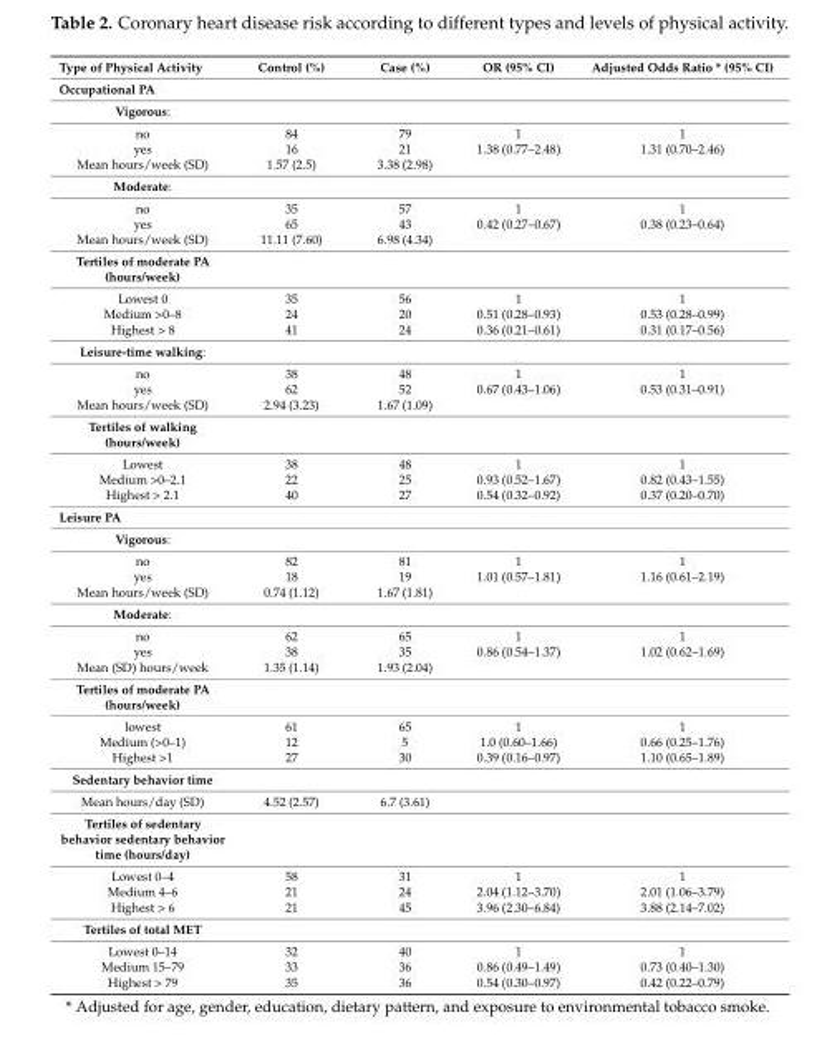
<table><thead><tr><td>Type of Physical Activity</td><td>Control (%)</td><td>Case (%)</td><td>OR (95% CI)</td><td>Adjusted Odds Ratio * (95% CI)</td></tr></thead><tbody><tr><td colspan="5">Occupational PA</td></tr><tr><td colspan="5">Vigorous:</td></tr><tr><td>no</td><td>84</td><td>79</td><td>1</td><td>1</td></tr><tr><td>yes</td><td>16</td><td>21</td><td>1.38 (0.77–2.48)</td><td>1.31 (0.70–2.46)</td></tr><tr><td>Mean hours/week (SD)</td><td>1.57 (2.5)</td><td>3.38 (2.98)</td><td></td><td></td></tr><tr><td colspan="5">Moderate:</td></tr><tr><td>no</td><td>35</td><td>57</td><td>1</td><td>1</td></tr><tr><td>yes</td><td>65</td><td>43</td><td>0.42 (0.27–0.67)</td><td>0.38 (0.23–0.64)</td></tr><tr><td>Mean hours/week (SD)</td><td>11.11 (7.60)</td><td>6.98 (4.34)</td><td></td><td></td></tr><tr><td colspan="5">Tertiles of moderate PA (hours/week)</td></tr><tr><td>Lowest 0</td><td>35</td><td>56</td><td>1</td><td>1</td></tr><tr><td>Medium &gt;0–8</td><td>24</td><td>20</td><td>0.51 (0.28–0.93)</td><td>0.53 (0.28–0.99)</td></tr><tr><td>Highest &gt; 8</td><td>41</td><td>24</td><td>0.36 (0.21–0.61)</td><td>0.31 (0.17–0.56)</td></tr><tr><td colspan="5">Leisure-time walking:</td></tr><tr><td>no</td><td>38</td><td>48</td><td>1</td><td>1</td></tr><tr><td>yes</td><td>62</td><td>52</td><td>0.67 (0.43–1.06)</td><td>0.53 (0.31–0.91)</td></tr><tr><td>Mean hours/week (SD)</td><td>2.94 (3.23)</td><td>1.67 (1.09)</td><td></td><td></td></tr><tr><td colspan="5">Tertiles of walking (hours/week)</td></tr><tr><td>Lowest</td><td>38</td><td>48</td><td>1</td><td>1</td></tr><tr><td>Medium &gt;0–2.1</td><td>22</td><td>25</td><td>0.93 (0.52–1.67)</td><td>0.82 (0.43–1.55)</td></tr><tr><td>Highest &gt; 2.1</td><td>40</td><td>27</td><td>0.54 (0.32–0.92)</td><td>0.37 (0.20–0.70)</td></tr><tr><td colspan="5">Leisure PA</td></tr><tr><td colspan="5">Vigorous:</td></tr><tr><td>no</td><td>82</td><td>81</td><td>1</td><td>1</td></tr><tr><td>yes</td><td>18</td><td>19</td><td>1.01 (0.57–1.81)</td><td>1.16 (0.61–2.19)</td></tr><tr><td>Mean hours/week (SD)</td><td>0.74 (1.12)</td><td>1.67 (1.81)</td><td></td><td></td></tr><tr><td colspan="5">Moderate:</td></tr><tr><td>no</td><td>62</td><td>65</td><td>1</td><td>1</td></tr><tr><td>yes</td><td>38</td><td>35</td><td>0.86 (0.54–1.37)</td><td>1.02 (0.62–1.69)</td></tr><tr><td>Mean (SD) hours/week</td><td>1.35 (1.14)</td><td>1.93 (2.04)</td><td></td><td></td></tr><tr><td colspan="5">Tertiles of moderate PA (hours/week)</td></tr><tr><td>lowest</td><td>61</td><td>65</td><td>1</td><td>1</td></tr><tr><td>Medium (&gt;0–1)</td><td>12</td><td>5</td><td>1.0 (0.60–1.66)</td><td>0.66 (0.25–1.76)</td></tr><tr><td>Highest &gt;1</td><td>27</td><td>30</td><td>0.39 (0.16–0.97)</td><td>1.10 (0.65–1.89)</td></tr><tr><td colspan="5">Sedentary behavior time</td></tr><tr><td>Mean hours/day (SD)</td><td>4.52 (2.57)</td><td>6.7 (3.61)</td><td></td><td></td></tr><tr><td colspan="5">Tertiles of sedentary behavior sedentary behavior time (hours/day)</td></tr><tr><td>Lowest 0–4</td><td>58</td><td>31</td><td>1</td><td>1</td></tr><tr><td>Medium 4–6</td><td>21</td><td>24</td><td>2.04 (1.12–3.70)</td><td>2.01 (1.06–3.79)</td></tr><tr><td>Highest &gt; 6</td><td>21</td><td>45</td><td>3.96 (2.30–6.84)</td><td>3.88 (2.14–7.02)</td></tr><tr><td colspan="5">Tertiles of total MET</td></tr><tr><td>Lowest 0–14</td><td>32</td><td>40</td><td>1</td><td>1</td></tr><tr><td>Medium 15–79</td><td>33</td><td>36</td><td>0.86 (0.49–1.49)</td><td>0.73 (0.40–1.30)</td></tr><tr><td>Highest &gt; 79</td><td>35</td><td>36</td><td>0.54 (0.30–0.97)</td><td>0.42 (0.22–0.79)</td></tr></tbody></table>